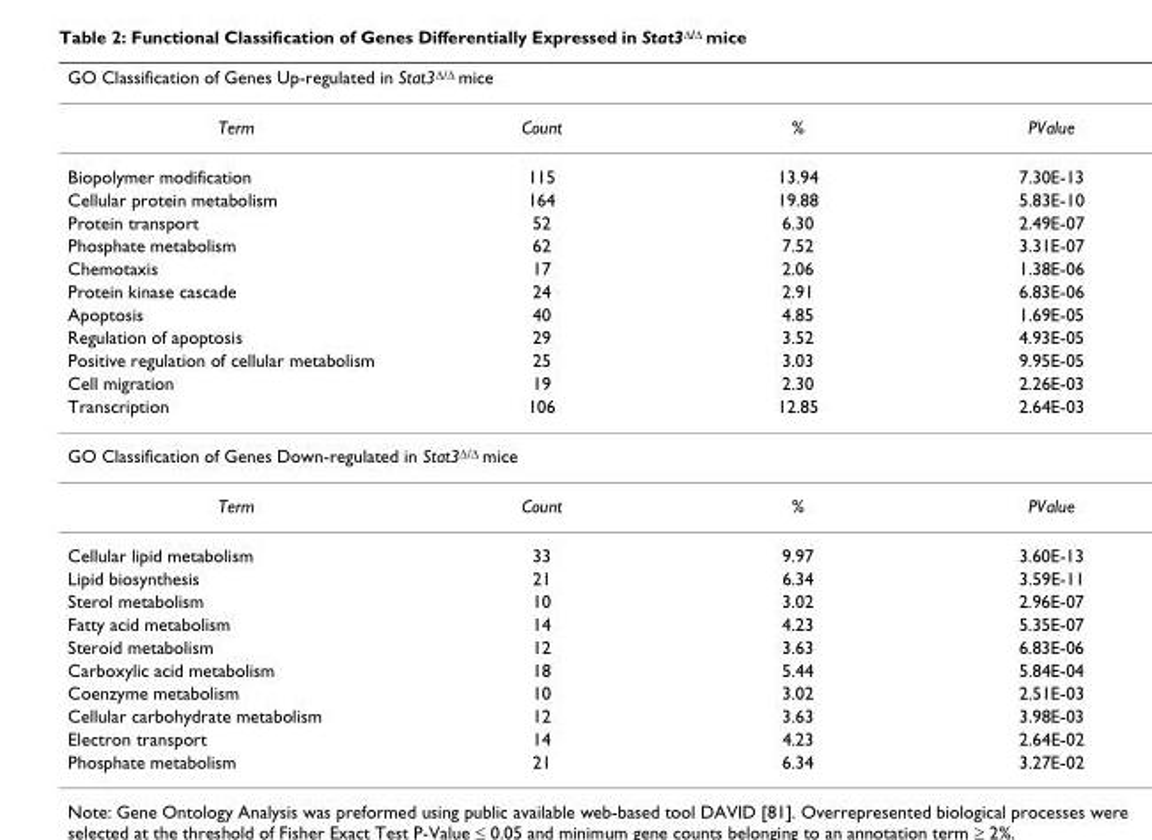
<table><thead><tr><td colspan="4">GO Classification of Genes Up-regulated in Stat3<sup>Δ/Δ</sup> mice</td></tr><tr><td>Term</td><td>Count</td><td>%</td><td>PValue</td></tr></thead><tbody><tr><td>Biopolymer modification</td><td>115</td><td>13.94</td><td>7.30E-13</td></tr><tr><td>Cellular protein metabolism</td><td>164</td><td>19.88</td><td>5.83E-10</td></tr><tr><td>Protein transport</td><td>52</td><td>6.30</td><td>2.49E-07</td></tr><tr><td>Phosphate metabolism</td><td>62</td><td>7.52</td><td>3.31E-07</td></tr><tr><td>Chemotaxis</td><td>17</td><td>2.06</td><td>1.38E-06</td></tr><tr><td>Protein kinase cascade</td><td>24</td><td>2.91</td><td>6.83E-06</td></tr><tr><td>Apoptosis</td><td>40</td><td>4.85</td><td>1.69E-05</td></tr><tr><td>Regulation of apoptosis</td><td>29</td><td>3.52</td><td>4.93E-05</td></tr><tr><td>Positive regulation of cellular metabolism</td><td>25</td><td>3.03</td><td>9.95E-05</td></tr><tr><td>Cell migration</td><td>19</td><td>2.30</td><td>2.26E-03</td></tr><tr><td>Transcription</td><td>106</td><td>12.85</td><td>2.64E-03</td></tr><tr><td colspan="4">GO Classification of Genes Down-regulated in Stat3<sup>Δ/Δ</sup> mice</td></tr><tr><td>Term</td><td>Count</td><td>%</td><td>PValue</td></tr><tr><td>Cellular lipid metabolism</td><td>33</td><td>9.97</td><td>3.60E-13</td></tr><tr><td>Lipid biosynthesis</td><td>21</td><td>6.34</td><td>3.59E-11</td></tr><tr><td>Sterol metabolism</td><td>10</td><td>3.02</td><td>2.96E-07</td></tr><tr><td>Fatty acid metabolism</td><td>14</td><td>4.23</td><td>5.35E-07</td></tr><tr><td>Steroid metabolism</td><td>12</td><td>3.63</td><td>6.83E-06</td></tr><tr><td>Carboxylic acid metabolism</td><td>18</td><td>5.44</td><td>5.84E-04</td></tr><tr><td>Coenzyme metabolism</td><td>10</td><td>3.02</td><td>2.51E-03</td></tr><tr><td>Cellular carbohydrate metabolism</td><td>12</td><td>3.63</td><td>3.98E-03</td></tr><tr><td>Electron transport</td><td>14</td><td>4.23</td><td>2.64E-02</td></tr><tr><td>Phosphate metabolism</td><td>21</td><td>6.34</td><td>3.27E-02</td></tr></tbody></table>